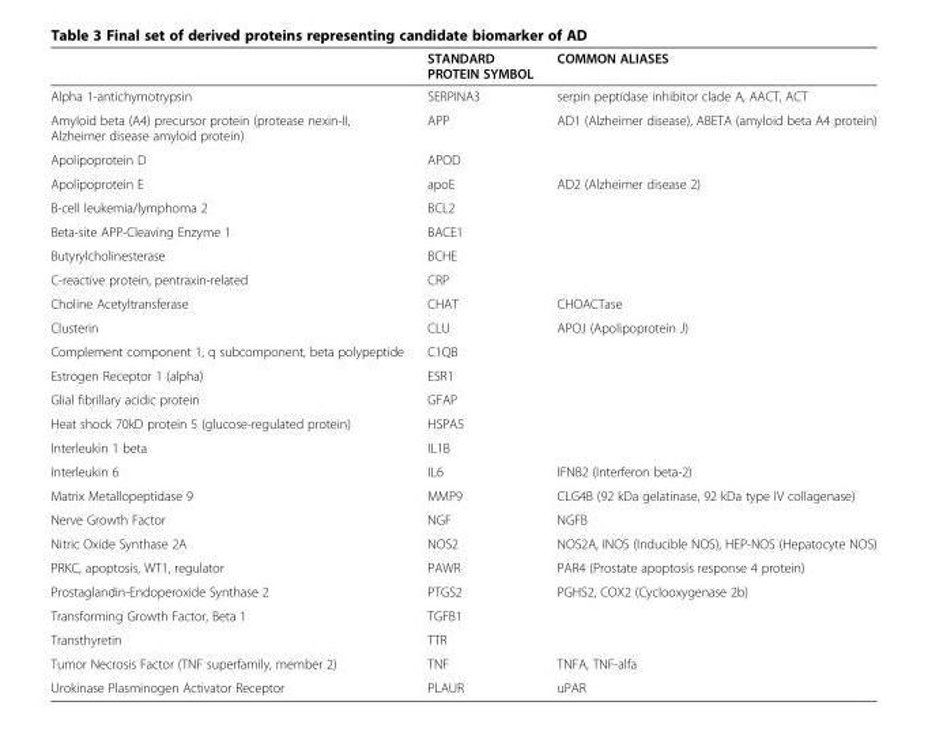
<table><thead><tr><td></td><td>STANDARD PROTEIN SYMBOL</td><td>COMMON ALIASES</td></tr></thead><tbody><tr><td>Alpha 1-antichymotrypsin</td><td>SERPINA3</td><td>serpin peptidase inhibitor clade A, AACT, ACT</td></tr><tr><td>Amyloid beta (A4) precursor protein (protease nexin-II, Alzheimer disease amyloid protein)</td><td>APP</td><td>AD1 (Alzheimer disease), ABETA (amyloid beta A4 protein)</td></tr><tr><td>Apolipoprotein D</td><td>APOD</td><td></td></tr><tr><td>Apolipoprotein E</td><td>apoE</td><td>AD2 (Alzheimer disease 2)</td></tr><tr><td>B-cell leukemia/lymphoma 2</td><td>BCL2</td><td></td></tr><tr><td>Beta-site APP-Cleaving Enzyme 1</td><td>BACE1</td><td></td></tr><tr><td>Butyrylcholinesterase</td><td>BCHE</td><td></td></tr><tr><td>C-reactive protein, pentraxin-related</td><td>CRP</td><td></td></tr><tr><td>Choline Acetyltransferase</td><td>CHAT</td><td>CHOACTase</td></tr><tr><td>Clusterin</td><td>CLU</td><td>APOJ (Apolipoprotein J)</td></tr><tr><td>Complement component 1, q subcomponent, beta polypeptide</td><td>C1QB</td><td></td></tr><tr><td>Estrogen Receptor 1 (alpha)</td><td>ESR1</td><td></td></tr><tr><td>Glial fibrillary acidic protein</td><td>GFAP</td><td></td></tr><tr><td>Heat shock 70kD protein 5 (glucose-regulated protein)</td><td>HSPA5</td><td></td></tr><tr><td>Interleukin 1 beta</td><td>IL1B</td><td></td></tr><tr><td>Interleukin 6</td><td>IL6</td><td>IFNB2 (Interferon beta-2)</td></tr><tr><td>Matrix Metallopeptidase 9</td><td>MMP9</td><td>CLG4B (92 kDa gelatinase, 92 kDa type IV collagenase)</td></tr><tr><td>Nerve Growth Factor</td><td>NGF</td><td>NGFB</td></tr><tr><td>Nitric Oxide Synthase 2A</td><td>NOS2</td><td>NOS2A, INOS (Inducible NOS), HEP-NOS (Hepatocyte NOS)</td></tr><tr><td>PRKC, apoptosis, WT1, regulator</td><td>PAWR</td><td>PAR4 (Prostate apoptosis response 4 protein)</td></tr><tr><td>Prostaglandin-Endoperoxide Synthase 2</td><td>PTGS2</td><td>PGHS2, COX2 (Cyclooxygenase 2b)</td></tr><tr><td>Transforming Growth Factor, Beta 1</td><td>TGFB1</td><td></td></tr><tr><td>Transthyretin</td><td>TTR</td><td></td></tr><tr><td>Tumor Necrosis Factor (TNF superfamily, member 2)</td><td>TNF</td><td>TNFA, TNF-alfa</td></tr><tr><td>Urokinase Plasminogen Activator Receptor</td><td>PLAUR</td><td>uPAR</td></tr></tbody></table>